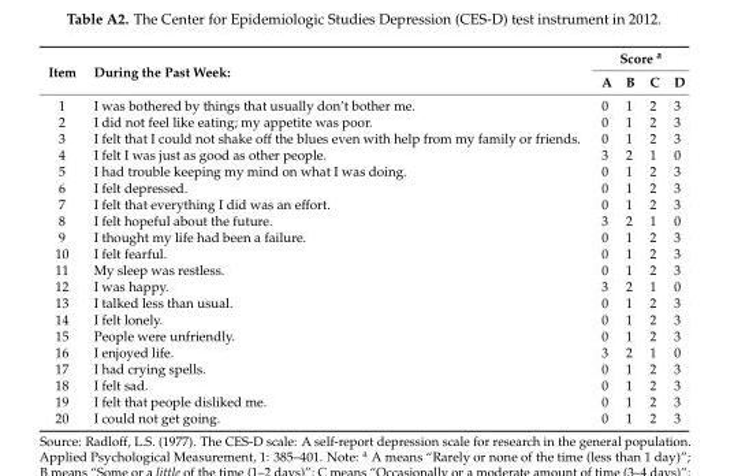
<table><thead><tr><td rowspan="2">Item</td><td rowspan="2">During the Past Week:</td><td colspan="4">Score <sup>a</sup></td></tr><tr><td>A</td><td>B</td><td>C</td><td>D</td></tr></thead><tbody><tr><td>1</td><td>I was bothered by things that usually don’t bother me.</td><td>0</td><td>1</td><td>2</td><td>3</td></tr><tr><td>2</td><td>I did not feel like eating; my appetite was poor.</td><td>0</td><td>1</td><td>2</td><td>3</td></tr><tr><td>3</td><td>I felt that I could not shake off the blues even with help from my family or friends.</td><td>0</td><td>1</td><td>2</td><td>3</td></tr><tr><td>4</td><td>I felt I was just as good as other people.</td><td>3</td><td>2</td><td>1</td><td>0</td></tr><tr><td>5</td><td>I had trouble keeping my mind on what I was doing.</td><td>0</td><td>1</td><td>2</td><td>3</td></tr><tr><td>6</td><td>I felt depressed.</td><td>0</td><td>1</td><td>2</td><td>3</td></tr><tr><td>7</td><td>I felt that everything I did was an effort.</td><td>0</td><td>1</td><td>2</td><td>3</td></tr><tr><td>8</td><td>I felt hopeful about the future.</td><td>3</td><td>2</td><td>1</td><td>0</td></tr><tr><td>9</td><td>I thought my life had been a failure.</td><td>0</td><td>1</td><td>2</td><td>3</td></tr><tr><td>10</td><td>I felt fearful.</td><td>0</td><td>1</td><td>2</td><td>3</td></tr><tr><td>11</td><td>My sleep was restless.</td><td>0</td><td>1</td><td>2</td><td>3</td></tr><tr><td>12</td><td>I was happy.</td><td>3</td><td>2</td><td>1</td><td>0</td></tr><tr><td>13</td><td>I talked less than usual.</td><td>0</td><td>1</td><td>2</td><td>3</td></tr><tr><td>14</td><td>I felt lonely.</td><td>0</td><td>1</td><td>2</td><td>3</td></tr><tr><td>15</td><td>People were unfriendly.</td><td>0</td><td>1</td><td>2</td><td>3</td></tr><tr><td>16</td><td>I enjoyed life.</td><td>3</td><td>2</td><td>1</td><td>0</td></tr><tr><td>17</td><td>I had crying spells.</td><td>0</td><td>1</td><td>2</td><td>3</td></tr><tr><td>18</td><td>I felt sad.</td><td>0</td><td>1</td><td>2</td><td>3</td></tr><tr><td>19</td><td>I felt that people disliked me.</td><td>0</td><td>1</td><td>2</td><td>3</td></tr><tr><td>20</td><td>I could not get going.</td><td>0</td><td>1</td><td>2</td><td>3</td></tr></tbody></table>